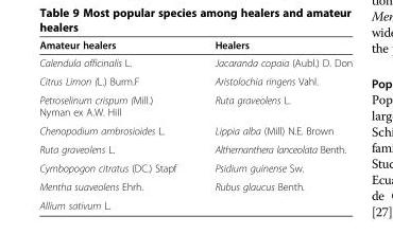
<table><thead><tr><td>Amateur healers</td><td>Healers</td></tr></thead><tbody><tr><td>Calendula officinalis L.</td><td>Jacaranda copaia (Aubl.) D. Don</td></tr><tr><td>Citrus Limon (L.) Burm.F</td><td>Aristolochia ringens Vahl.</td></tr><tr><td>Petroselinum crispum (Mill.) Nyman ex A.W. Hill</td><td>Ruta graveolens L.</td></tr><tr><td>Chenopodium ambrosioides L.</td><td>Lippia alba (Mill) N.E. Brown</td></tr><tr><td>Ruta graveolens L.</td><td>Althernanthera lanceolata Benth.</td></tr><tr><td>Cymbopogon citratus (DC.) Stapf</td><td>Psidium guinense Sw.</td></tr><tr><td>Mentha suaveolens Ehrh.</td><td>Rubus glaucus Benth.</td></tr><tr><td>Allium sativum L.</td><td></td></tr></tbody></table>